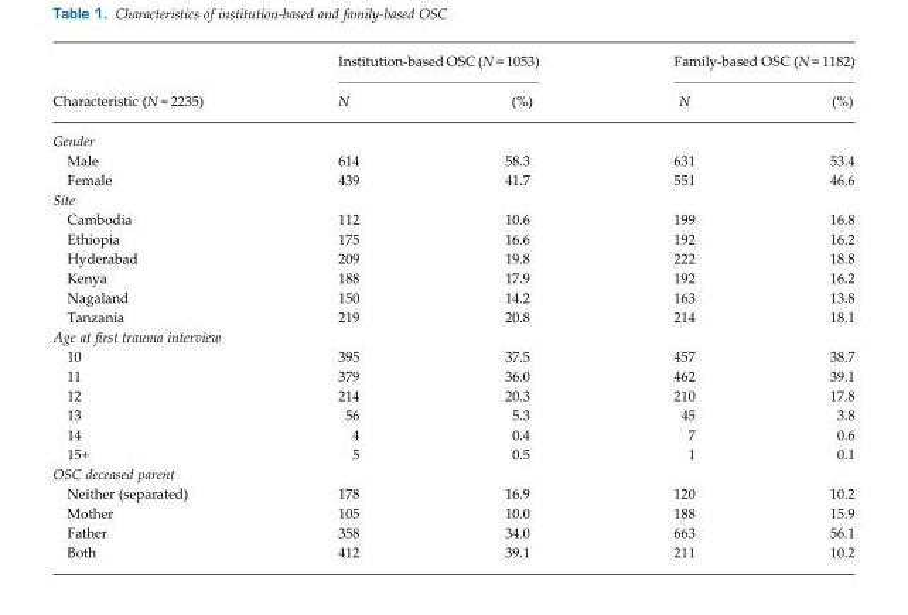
<table><thead><tr><td rowspan="2">Characteristic (N = 2235)</td><td colspan="2">Institution-based OSC (N = 1053)</td><td colspan="2">Family-based OSC (N = 1182)</td></tr><tr><td>N</td><td>(%)</td><td>N</td><td>(%)</td></tr></thead><tbody><tr><td colspan="5">Gender</td></tr><tr><td>Male</td><td>614</td><td>58.3</td><td>631</td><td>53.4</td></tr><tr><td>Female</td><td>439</td><td>41.7</td><td>551</td><td>46.6</td></tr><tr><td colspan="5">Site</td></tr><tr><td>Cambodia</td><td>112</td><td>10.6</td><td>199</td><td>16.8</td></tr><tr><td>Ethiopia</td><td>175</td><td>16.6</td><td>192</td><td>16.2</td></tr><tr><td>Hyderabad</td><td>209</td><td>19.8</td><td>222</td><td>18.8</td></tr><tr><td>Kenya</td><td>188</td><td>17.9</td><td>192</td><td>16.2</td></tr><tr><td>Nagaland</td><td>150</td><td>14.2</td><td>163</td><td>13.8</td></tr><tr><td>Tanzania</td><td>219</td><td>20.8</td><td>214</td><td>18.1</td></tr><tr><td colspan="5">Age at first trauma interview</td></tr><tr><td>10</td><td>395</td><td>37.5</td><td>457</td><td>38.7</td></tr><tr><td>11</td><td>379</td><td>36.0</td><td>462</td><td>39.1</td></tr><tr><td>12</td><td>214</td><td>20.3</td><td>210</td><td>17.8</td></tr><tr><td>13</td><td>56</td><td>5.3</td><td>45</td><td>3.8</td></tr><tr><td>14</td><td>4</td><td>0.4</td><td>7</td><td>0.6</td></tr><tr><td>15+</td><td>5</td><td>0.5</td><td>1</td><td>0.1</td></tr><tr><td colspan="5">OSC deceased parent</td></tr><tr><td>Neither (separated)</td><td>178</td><td>16.9</td><td>120</td><td>10.2</td></tr><tr><td>Mother</td><td>105</td><td>10.0</td><td>188</td><td>15.9</td></tr><tr><td>Father</td><td>358</td><td>34.0</td><td>663</td><td>56.1</td></tr><tr><td>Both</td><td>412</td><td>39.1</td><td>211</td><td>10.2</td></tr></tbody></table>